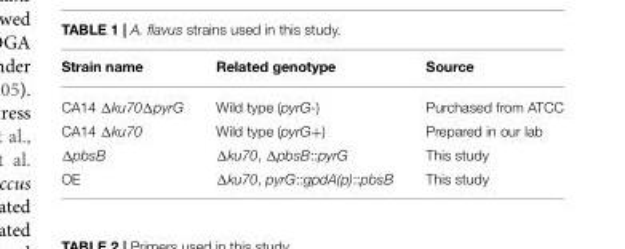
<table><thead><tr><td>Strain name</td><td>Related genotype</td><td>Source</td></tr></thead><tbody><tr><td>CA14 Δku70ΔpyrG</td><td>Wild type (pyrG-)</td><td>Purchased from ATCC</td></tr><tr><td>CA14 Δku70</td><td>Wild type (pyrG+)</td><td>Prepared in our lab</td></tr><tr><td>ΔpbsB</td><td>Δku70, ΔpbsB::pyrG</td><td>This study</td></tr><tr><td>OE</td><td>Δku70, pyrG::gpdA(p)::pbsB</td><td>This study</td></tr></tbody></table>